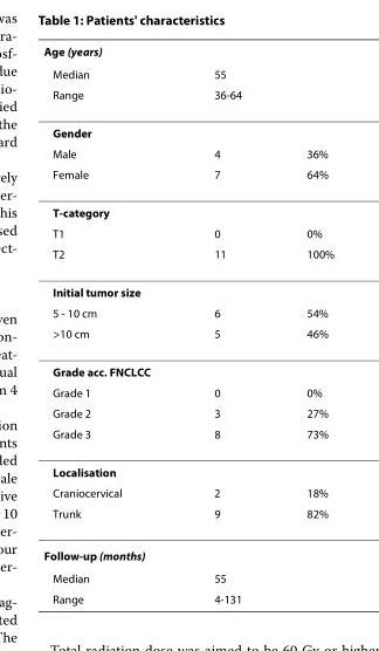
<table><thead><tr><td colspan="3">Age (years)</td></tr><tr><td rowspan="2">Median Range</td><td rowspan="2">55 36-64</td><td rowspan="2"></td></tr><tr></tr></thead><tbody><tr><td colspan="3">Gender</td></tr><tr><td>Male</td><td>4</td><td>36%</td></tr><tr><td>Female</td><td>7</td><td>64%</td></tr><tr><td colspan="3">T-category</td></tr><tr><td>T1</td><td>0</td><td>0%</td></tr><tr><td>T2</td><td>11</td><td>100%</td></tr><tr><td colspan="3">Initial tumor size</td></tr><tr><td>5 - 10 cm</td><td>6</td><td>54%</td></tr><tr><td>&gt;10 cm</td><td>5</td><td>46%</td></tr><tr><td colspan="3">Grade acc. FNCLCC</td></tr><tr><td>Grade 1</td><td>0</td><td>0%</td></tr><tr><td>Grade 2</td><td>3</td><td>27%</td></tr><tr><td>Grade 3</td><td>8</td><td>73%</td></tr><tr><td colspan="3">Localisation</td></tr><tr><td>Craniocervical</td><td>2</td><td>18%</td></tr><tr><td>Trunk</td><td>9</td><td>82%</td></tr><tr><td colspan="3">Follow-up (months)</td></tr><tr><td>Median</td><td>55</td><td></td></tr><tr><td>Range</td><td>4-131</td><td></td></tr></tbody></table>